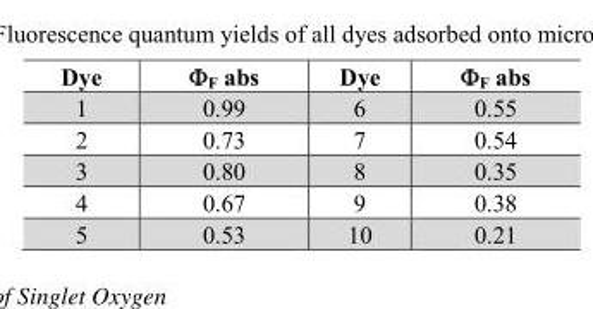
<table><thead><tr><td>Dye</td><td>Φ<sub>F</sub> abs</td><td>Dye</td><td>Φ<sub>F</sub> abs</td></tr></thead><tbody><tr><td>1</td><td>0.99</td><td>6</td><td>0.55</td></tr><tr><td>2</td><td>0.73</td><td>7</td><td>0.54</td></tr><tr><td>3</td><td>0.80</td><td>8</td><td>0.35</td></tr><tr><td>4</td><td>0.67</td><td>9</td><td>0.38</td></tr><tr><td>5</td><td>0.53</td><td>10</td><td>0.21</td></tr></tbody></table>